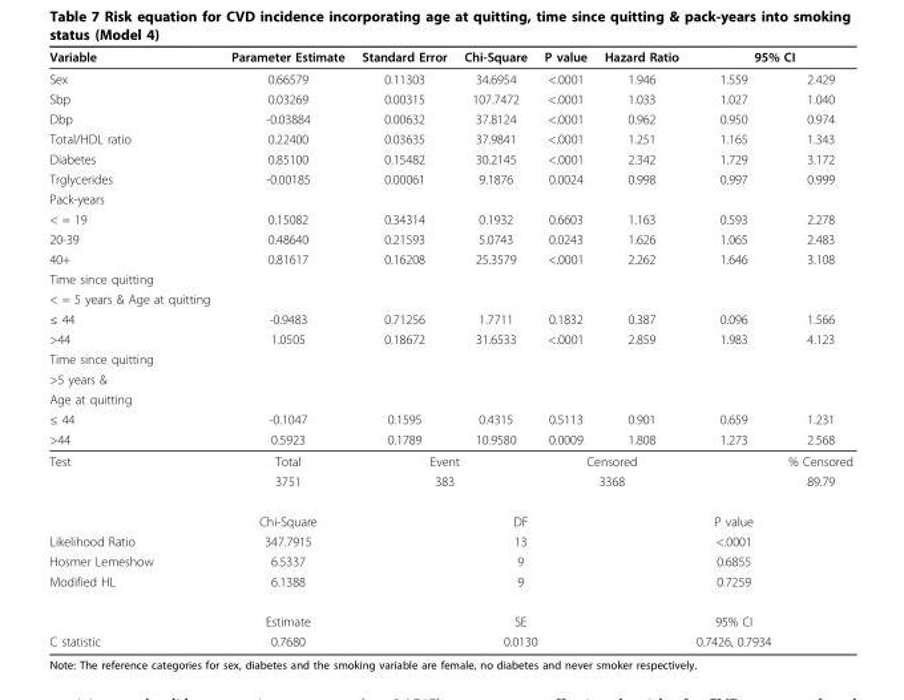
<table><thead><tr><td rowspan="2">Variable Sex</td><td rowspan="2">Parameter Estimate 0.66579</td><td rowspan="2">Standard Error 0.11303</td><td rowspan="2">Chi-Square 34.6954</td><td rowspan="2">P value &lt;.0001</td><td rowspan="2">Hazard Ratio 1.946</td><td colspan="2">95% CI</td></tr><tr><td>1.559</td><td>2.429</td></tr></thead><tbody><tr><td>Sbp</td><td>0.03269</td><td>0.00315</td><td>107.7472</td><td>&lt;.0001</td><td>1.033</td><td>1.027</td><td>1.040</td></tr><tr><td>Dbp</td><td>-0.03884</td><td>0.00632</td><td>37.8124</td><td>&lt;.0001</td><td>0.962</td><td>0.950</td><td>0.974</td></tr><tr><td>Total/HDL ratio</td><td>0.22400</td><td>0.03635</td><td>37.9841</td><td>&lt;.0001</td><td>1.251</td><td>1.165</td><td>1.343</td></tr><tr><td>Diabetes</td><td>0.85100</td><td>0.15482</td><td>30.2145</td><td>&lt;.0001</td><td>2.342</td><td>1.729</td><td>3.172</td></tr><tr><td>Trglycerides</td><td>-0.00185</td><td>0.00061</td><td>9.1876</td><td>0.0024</td><td>0.998</td><td>0.997</td><td>0.999</td></tr><tr><td colspan="8">Pack-years</td></tr><tr><td>&lt; = 19</td><td>0.15082</td><td>0.34314</td><td>0.1932</td><td>0.6603</td><td>1.163</td><td>0.593</td><td>2.278</td></tr><tr><td>20-39</td><td>0.48640</td><td>0.21593</td><td>5.0743</td><td>0.0243</td><td>1.626</td><td>1.065</td><td>2.483</td></tr><tr><td>40+</td><td>0.81617</td><td>0.16208</td><td>25.3579</td><td>&lt;.0001</td><td>2.262</td><td>1.646</td><td>3.108</td></tr><tr><td colspan="8">Time since quitting</td></tr><tr><td colspan="8">&lt; = 5 years &amp; Age at quitting</td></tr><tr><td>≤ 44</td><td>-0.9483</td><td>0.71256</td><td>1.7711</td><td>0.1832</td><td>0.387</td><td>0.096</td><td>1.566</td></tr><tr><td>&gt;44</td><td>1.0505</td><td>0.18672</td><td>31.6533</td><td>&lt;.0001</td><td>2.859</td><td>1.983</td><td>4.123</td></tr><tr><td colspan="8">Time since quitting</td></tr><tr><td colspan="8">&gt;5 years &amp;</td></tr><tr><td colspan="8">Age at quitting</td></tr><tr><td>≤ 44</td><td>-0.1047</td><td>0.1595</td><td>0.4315</td><td>0.5113</td><td>0.901</td><td>0.659</td><td>1.231</td></tr><tr><td>&gt;44</td><td>0.5923</td><td>0.1789</td><td>10.9580</td><td>0.0009</td><td>1.808</td><td>1.273</td><td>2.568</td></tr><tr><td rowspan="3">Test</td><td>Total</td><td colspan="2">Event</td><td colspan="2">Censored</td><td></td><td>% Censored</td></tr><tr><td>3751</td><td colspan="2">383</td><td colspan="2">3368</td><td></td><td>89.79</td></tr><tr><td>Chi-Square</td><td colspan="4">DF</td><td>P value</td><td></td></tr><tr><td>Likelihood Ratio</td><td>347.7915</td><td colspan="4">13</td><td>&lt;.0001</td><td></td></tr><tr><td>Hosmer Lemeshow</td><td>6.5337</td><td colspan="4">9</td><td>0.6855</td><td></td></tr><tr><td rowspan="2">Modified HL</td><td>6.1388</td><td colspan="4">9</td><td>0.7259</td><td></td></tr><tr><td>Estimate</td><td colspan="4">SE</td><td>95% CI</td><td></td></tr><tr><td>C statistic</td><td>0.7680</td><td colspan="4">0.0130</td><td>0.7426, 0.7934</td><td></td></tr></tbody></table>